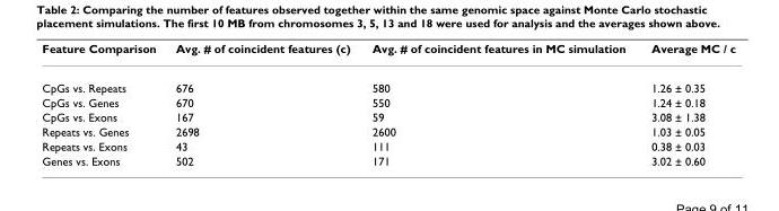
<table><thead><tr><td>Feature Comparison</td><td>Avg. # of coincident features (c)</td><td>Avg. # of coincident features in MC simulation</td><td>Average MC / c</td></tr></thead><tbody><tr><td>CpGs vs. Repeats</td><td>676</td><td>580</td><td>1.26 ± 0.35</td></tr><tr><td>CpGs vs. Genes</td><td>670</td><td>550</td><td>1.24 ± 0.18</td></tr><tr><td>CpGs vs. Exons</td><td>167</td><td>59</td><td>3.08 ± 1.38</td></tr><tr><td>Repeats vs. Genes</td><td>2698</td><td>2600</td><td>1.03 ± 0.05</td></tr><tr><td>Repeats vs. Exons</td><td>43</td><td>111</td><td>0.38 ± 0.03</td></tr><tr><td>Genes vs. Exons</td><td>502</td><td>171</td><td>3.02 ± 0.60</td></tr></tbody></table>